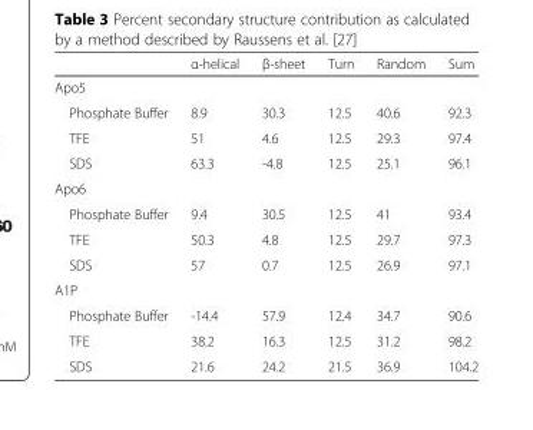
<table><thead><tr><td></td><td>α-helical</td><td>β-sheet</td><td>Turn</td><td>Random</td><td>Sum</td></tr></thead><tbody><tr><td colspan="6">Apo5</td></tr><tr><td>Phosphate Buffer</td><td>8.9</td><td>30.3</td><td>12.5</td><td>40.6</td><td>92.3</td></tr><tr><td>TFE</td><td>51</td><td>4.6</td><td>12.5</td><td>29.3</td><td>97.4</td></tr><tr><td>SDS</td><td>63.3</td><td>-4.8</td><td>12.5</td><td>25.1</td><td>96.1</td></tr><tr><td colspan="6">Apo6</td></tr><tr><td>Phosphate Buffer</td><td>9.4</td><td>30.5</td><td>12.5</td><td>41</td><td>93.4</td></tr><tr><td>TFE</td><td>50.3</td><td>4.8</td><td>12.5</td><td>29.7</td><td>97.3</td></tr><tr><td>SDS</td><td>57</td><td>0.7</td><td>12.5</td><td>26.9</td><td>97.1</td></tr><tr><td colspan="6">A1P</td></tr><tr><td>Phosphate Buffer</td><td>-14.4</td><td>57.9</td><td>12.4</td><td>34.7</td><td>90.6</td></tr><tr><td>TFE</td><td>38.2</td><td>16.3</td><td>12.5</td><td>31.2</td><td>98.2</td></tr><tr><td>SDS</td><td>21.6</td><td>24.2</td><td>21.5</td><td>36.9</td><td>104.2</td></tr></tbody></table>